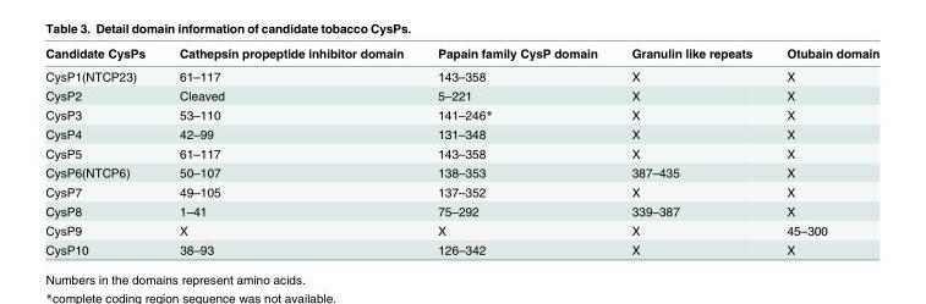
<table><thead><tr><td>Candidate CysPs</td><td>Cathepsin propeptide inhibitor domain</td><td>Papain family CysP domain</td><td>Granulin like repeats</td><td>Otubain domain</td></tr></thead><tbody><tr><td>CysP1(NTCP23)</td><td>61–117</td><td>143–358</td><td>X</td><td>X</td></tr><tr><td>CysP2</td><td>Cleaved</td><td>5–221</td><td>X</td><td>X</td></tr><tr><td>CysP3</td><td>53–110</td><td>141–246*</td><td>X</td><td>X</td></tr><tr><td>CysP4</td><td>42–99</td><td>131–348</td><td>X</td><td>X</td></tr><tr><td>CysP5</td><td>61–117</td><td>143–358</td><td>X</td><td>X</td></tr><tr><td>CysP6(NTCP6)</td><td>50–107</td><td>138–353</td><td>387–435</td><td>X</td></tr><tr><td>CysP7</td><td>49–105</td><td>137–352</td><td>X</td><td>X</td></tr><tr><td>CysP8</td><td>1–41</td><td>75–292</td><td>339–387</td><td>X</td></tr><tr><td>CysP9</td><td>X</td><td>X</td><td>X</td><td>45–300</td></tr><tr><td>CysP10</td><td>38–93</td><td>126–342</td><td>X</td><td>X</td></tr></tbody></table>